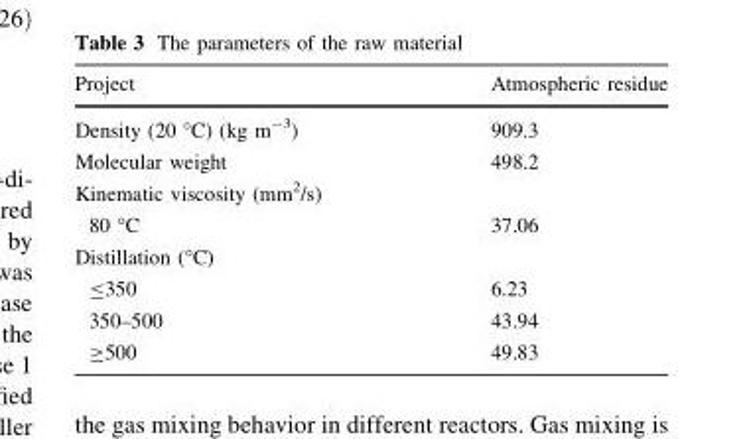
<table><thead><tr><td>Project</td><td>Atmospheric residue</td></tr></thead><tbody><tr><td>Density (20 °C) (kg m<sup>-3</sup>)</td><td>909.3</td></tr><tr><td>Molecular weight</td><td>498.2</td></tr><tr><td colspan="2">Kinematic viscosity (mm<sup>2</sup>/s)</td></tr><tr><td>80 °C</td><td>37.06</td></tr><tr><td colspan="2">Distillation (°C)</td></tr><tr><td>≤350</td><td>6.23</td></tr><tr><td>350–500</td><td>43.94</td></tr><tr><td>≥500</td><td>49.83</td></tr></tbody></table>